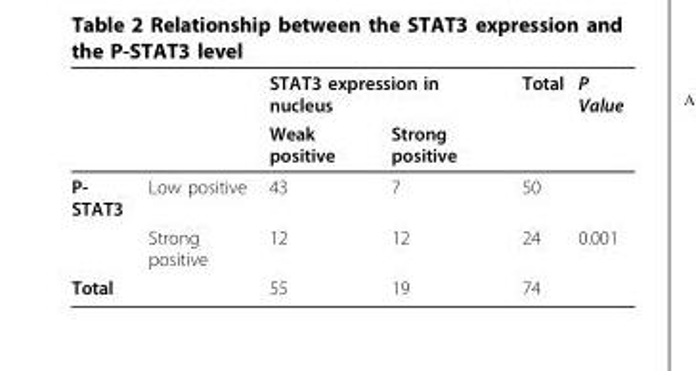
<table><thead><tr><td rowspan="2"></td><td rowspan="2"></td><td colspan="2">STAT3 expression in nucleus</td><td rowspan="2">Total</td><td rowspan="2">P Value</td></tr><tr><td>Weak positive</td><td>Strong positive</td></tr></thead><tbody><tr><td rowspan="2">P- STAT3</td><td>Low positive</td><td>43</td><td>7</td><td>50</td><td></td></tr><tr><td>Strong positive</td><td>12</td><td>12</td><td>24</td><td>0.001</td></tr><tr><td>Total</td><td></td><td>55</td><td>19</td><td>74</td><td></td></tr></tbody></table>